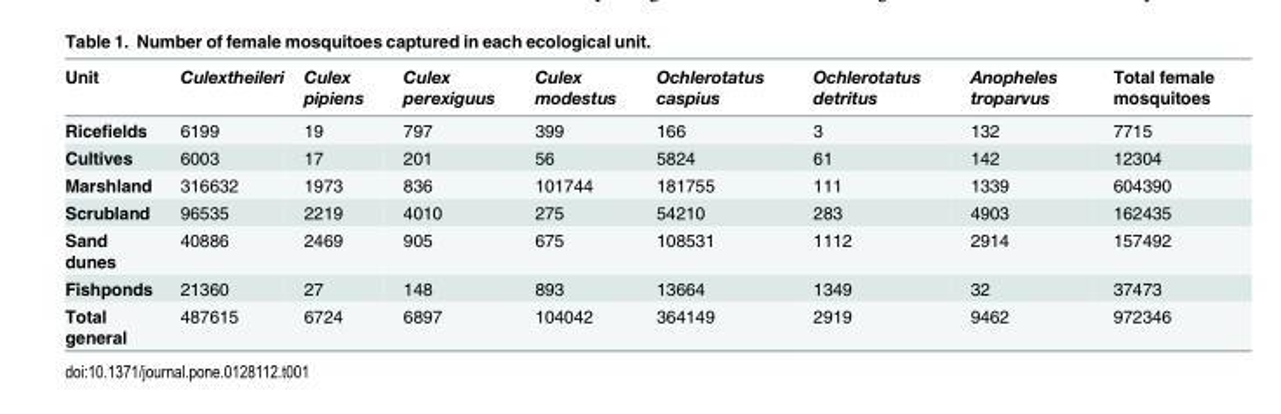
<table><thead><tr><td>Unit</td><td>Culextheileri</td><td>Culex pipiens</td><td>Culex perexiguus</td><td>Culex modestus</td><td>Ochlerotatus caspius</td><td>Ochlerotatus detritus</td><td>Anopheles troparvus</td><td>Total female mosquitoes</td></tr></thead><tbody><tr><td>Ricefields</td><td>6199</td><td>19</td><td>797</td><td>399</td><td>166</td><td>3</td><td>132</td><td>7715</td></tr><tr><td>Cultives</td><td>6003</td><td>17</td><td>201</td><td>56</td><td>5824</td><td>61</td><td>142</td><td>12304</td></tr><tr><td>Marshland</td><td>316632</td><td>1973</td><td>836</td><td>101744</td><td>181755</td><td>111</td><td>1339</td><td>604390</td></tr><tr><td>Scrubland</td><td>96535</td><td>2219</td><td>4010</td><td>275</td><td>54210</td><td>283</td><td>4903</td><td>162435</td></tr><tr><td>Sand dunes</td><td>40886</td><td>2469</td><td>905</td><td>675</td><td>108531</td><td>1112</td><td>2914</td><td>157492</td></tr><tr><td>Fishponds</td><td>21360</td><td>27</td><td>148</td><td>893</td><td>13664</td><td>1349</td><td>32</td><td>37473</td></tr><tr><td>Total general</td><td>487615</td><td>6724</td><td>6897</td><td>104042</td><td>364149</td><td>2919</td><td>9462</td><td>972346</td></tr></tbody></table>